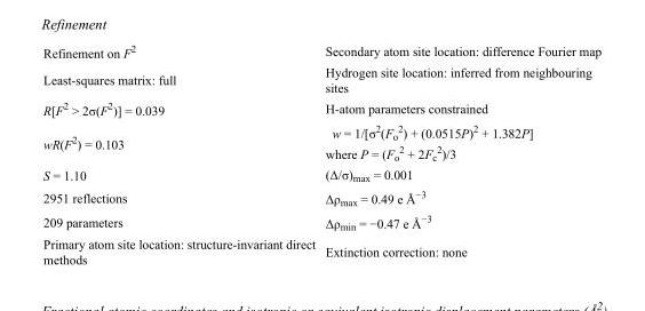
<table><tbody><tr><td>Refinement on F<sup>2</sup></td><td>Secondary atom site location: difference Fourier map</td></tr><tr><td>Least-squares matrix: full</td><td>Hydrogen site location: inferred from neighbouring sites</td></tr><tr><td>R[F<sup>2</sup> &gt; 2σ(F<sup>2</sup>)] = 0.039</td><td>H-atom parameters constrained</td></tr><tr><td>wR(F<sup>2</sup>) = 0.103</td><td>w = 1/[σ<sup>2</sup>(F<sub>o</sub> <sup>2</sup>) + (0.0515P)<sup>2</sup> + 1.382P] where P = (F<sub>o</sub> <sup>2</sup> + 2F<sub>c</sub> <sup>2</sup>)/3</td></tr><tr><td>S = 1.10</td><td>(Δ/σ)<sub>max</sub> = 0.001</td></tr><tr><td>2951 reflections</td><td>Δρ<sub>max</sub> = 0.49 e Å<sup>−3</sup></td></tr><tr><td>209 parameters</td><td>Δρ<sub>min</sub> = −0.47 e Å<sup>−3</sup></td></tr><tr><td>Primary atom site location: structure-invariant direct methods</td><td>Extinction correction: none</td></tr></tbody></table>